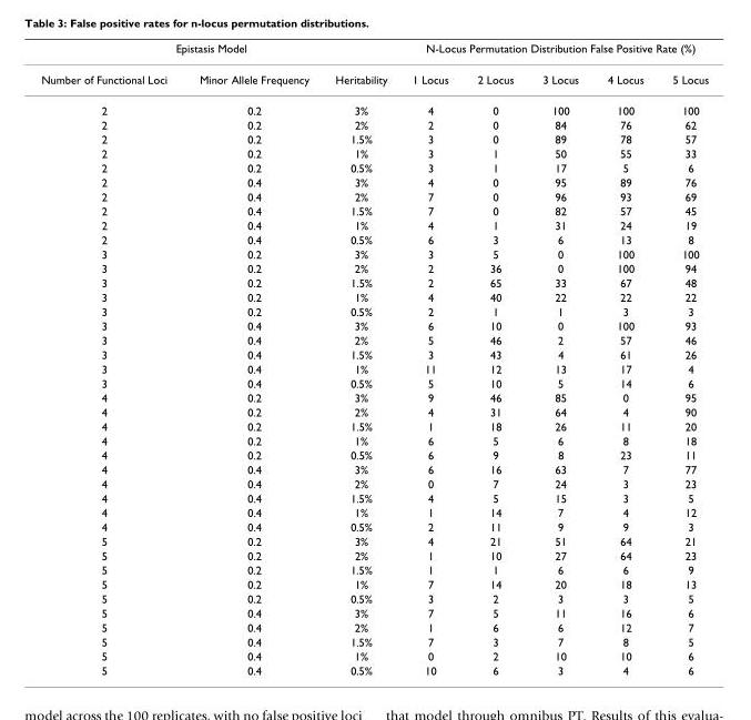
<table><thead><tr><td colspan="3">Epistasis Model</td><td colspan="5">N-Locus Permutation Distribution False Positive Rate (%)</td></tr><tr><td>Number of Functional Loci</td><td>Minor Allele Frequency</td><td>Heritability</td><td>1 Locus</td><td>2 Locus</td><td>3 Locus</td><td>4 Locus</td><td>5 Locus</td></tr></thead><tbody><tr><td>2</td><td>0.2</td><td>3%</td><td>4</td><td>0</td><td>100</td><td>100</td><td>100</td></tr><tr><td>2</td><td>0.2</td><td>2%</td><td>2</td><td>0</td><td>84</td><td>76</td><td>62</td></tr><tr><td>2</td><td>0.2</td><td>1.5%</td><td>3</td><td>0</td><td>89</td><td>78</td><td>57</td></tr><tr><td>2</td><td>0.2</td><td>1%</td><td>3</td><td>1</td><td>50</td><td>55</td><td>33</td></tr><tr><td>2</td><td>0.2</td><td>0.5%</td><td>3</td><td>1</td><td>17</td><td>5</td><td>6</td></tr><tr><td>2</td><td>0.4</td><td>3%</td><td>4</td><td>0</td><td>95</td><td>89</td><td>76</td></tr><tr><td>2</td><td>0.4</td><td>2%</td><td>7</td><td>0</td><td>96</td><td>93</td><td>69</td></tr><tr><td>2</td><td>0.4</td><td>1.5%</td><td>7</td><td>0</td><td>82</td><td>57</td><td>45</td></tr><tr><td>2</td><td>0.4</td><td>1%</td><td>4</td><td>1</td><td>31</td><td>24</td><td>19</td></tr><tr><td>2</td><td>0.4</td><td>0.5%</td><td>6</td><td>3</td><td>6</td><td>13</td><td>8</td></tr><tr><td>3</td><td>0.2</td><td>3%</td><td>3</td><td>5</td><td>0</td><td>100</td><td>100</td></tr><tr><td>3</td><td>0.2</td><td>2%</td><td>2</td><td>36</td><td>0</td><td>100</td><td>94</td></tr><tr><td>3</td><td>0.2</td><td>1.5%</td><td>2</td><td>65</td><td>33</td><td>67</td><td>48</td></tr><tr><td>3</td><td>0.2</td><td>1%</td><td>4</td><td>40</td><td>22</td><td>22</td><td>22</td></tr><tr><td>3</td><td>0.2</td><td>0.5%</td><td>2</td><td>1</td><td>1</td><td>3</td><td>3</td></tr><tr><td>3</td><td>0.4</td><td>3%</td><td>6</td><td>10</td><td>0</td><td>100</td><td>93</td></tr><tr><td>3</td><td>0.4</td><td>2%</td><td>5</td><td>46</td><td>2</td><td>57</td><td>46</td></tr><tr><td>3</td><td>0.4</td><td>1.5%</td><td>3</td><td>43</td><td>4</td><td>61</td><td>26</td></tr><tr><td>3</td><td>0.4</td><td>1%</td><td>11</td><td>12</td><td>13</td><td>17</td><td>4</td></tr><tr><td>3</td><td>0.4</td><td>0.5%</td><td>5</td><td>10</td><td>5</td><td>14</td><td>6</td></tr><tr><td>4</td><td>0.2</td><td>3%</td><td>9</td><td>46</td><td>85</td><td>0</td><td>95</td></tr><tr><td>4</td><td>0.2</td><td>2%</td><td>4</td><td>31</td><td>64</td><td>4</td><td>90</td></tr><tr><td>4</td><td>0.2</td><td>1.5%</td><td>1</td><td>18</td><td>26</td><td>11</td><td>20</td></tr><tr><td>4</td><td>0.2</td><td>1%</td><td>6</td><td>5</td><td>6</td><td>8</td><td>18</td></tr><tr><td>4</td><td>0.2</td><td>0.5%</td><td>6</td><td>9</td><td>8</td><td>23</td><td>11</td></tr><tr><td>4</td><td>0.4</td><td>3%</td><td>6</td><td>16</td><td>63</td><td>7</td><td>77</td></tr><tr><td>4</td><td>0.4</td><td>2%</td><td>0</td><td>7</td><td>24</td><td>3</td><td>23</td></tr><tr><td>4</td><td>0.4</td><td>1.5%</td><td>4</td><td>5</td><td>15</td><td>3</td><td>5</td></tr><tr><td>4</td><td>0.4</td><td>1%</td><td>1</td><td>14</td><td>7</td><td>4</td><td>12</td></tr><tr><td>4</td><td>0.4</td><td>0.5%</td><td>2</td><td>11</td><td>9</td><td>9</td><td>3</td></tr><tr><td>5</td><td>0.2</td><td>3%</td><td>4</td><td>21</td><td>51</td><td>64</td><td>21</td></tr><tr><td>5</td><td>0.2</td><td>2%</td><td>1</td><td>10</td><td>27</td><td>64</td><td>23</td></tr><tr><td>5</td><td>0.2</td><td>1.5%</td><td>1</td><td>1</td><td>6</td><td>6</td><td>9</td></tr><tr><td>5</td><td>0.2</td><td>1%</td><td>7</td><td>14</td><td>20</td><td>18</td><td>13</td></tr><tr><td>5</td><td>0.2</td><td>0.5%</td><td>3</td><td>2</td><td>3</td><td>3</td><td>5</td></tr><tr><td>5</td><td>0.4</td><td>3%</td><td>7</td><td>5</td><td>11</td><td>16</td><td>6</td></tr><tr><td>5</td><td>0.4</td><td>2%</td><td>1</td><td>6</td><td>6</td><td>12</td><td>7</td></tr><tr><td>5</td><td>0.4</td><td>1.5%</td><td>7</td><td>3</td><td>7</td><td>8</td><td>5</td></tr><tr><td>5</td><td>0.4</td><td>1%</td><td>0</td><td>2</td><td>10</td><td>10</td><td>6</td></tr><tr><td>5</td><td>0.4</td><td>0.5%</td><td>10</td><td>6</td><td>3</td><td>4</td><td>6</td></tr></tbody></table>